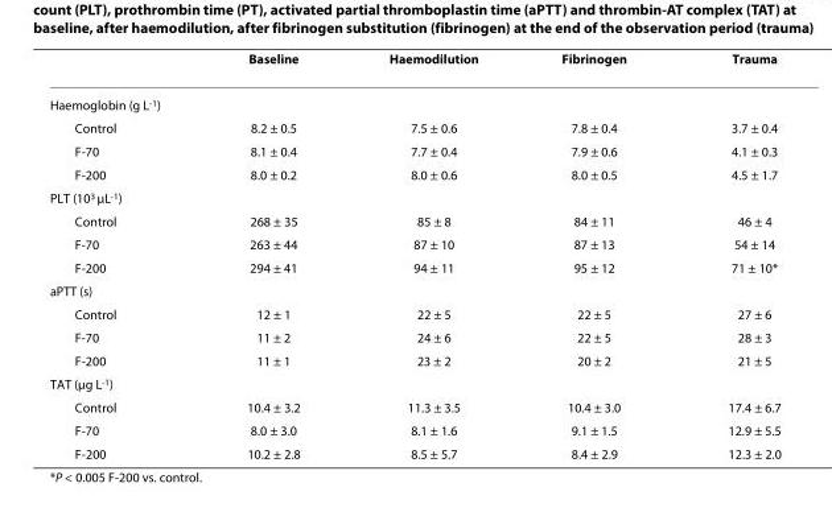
<table><thead><tr><td></td><td>Baseline</td><td>Haemodilution</td><td>Fibrinogen</td><td>Trauma</td></tr></thead><tbody><tr><td colspan="5">Haemoglobin (g L<sup>-1</sup>)</td></tr><tr><td>Control</td><td>8.2 ± 0.5</td><td>7.5 ± 0.6</td><td>7.8 ± 0.4</td><td>3.7 ± 0.4</td></tr><tr><td>F-70</td><td>8.1 ± 0.4</td><td>7.7 ± 0.4</td><td>7.9 ± 0.6</td><td>4.1 ± 0.3</td></tr><tr><td>F-200</td><td>8.0 ± 0.2</td><td>8.0 ± 0.6</td><td>8.0 ± 0.5</td><td>4.5 ± 1.7</td></tr><tr><td colspan="5">PLT (10<sup>3</sup> μL<sup>-1</sup>)</td></tr><tr><td>Control</td><td>268 ± 35</td><td>85 ± 8</td><td>84 ± 11</td><td>46 ± 4</td></tr><tr><td>F-70</td><td>263 ± 44</td><td>87 ± 10</td><td>87 ± 13</td><td>54 ± 14</td></tr><tr><td>F-200</td><td>294 ± 41</td><td>94 ± 11</td><td>95 ± 12</td><td>71 ± 10*</td></tr><tr><td colspan="5">aPTT (s)</td></tr><tr><td>Control</td><td>12 ± 1</td><td>22 ± 5</td><td>22 ± 5</td><td>27 ± 6</td></tr><tr><td>F-70</td><td>11 ± 2</td><td>24 ± 6</td><td>22 ± 5</td><td>28 ± 3</td></tr><tr><td>F-200</td><td>11 ± 1</td><td>23 ± 2</td><td>20 ± 2</td><td>21 ± 5</td></tr><tr><td colspan="5">TAT (μg L<sup>-1</sup>)</td></tr><tr><td>Control</td><td>10.4 ± 3.2</td><td>11.3 ± 3.5</td><td>10.4 ± 3.0</td><td>17.4 ± 6.7</td></tr><tr><td>F-70</td><td>8.0 ± 3.0</td><td>8.1 ± 1.6</td><td>9.1 ± 1.5</td><td>12.9 ± 5.5</td></tr><tr><td>F-200</td><td>10.2 ± 2.8</td><td>8.5 ± 5.7</td><td>8.4 ± 2.9</td><td>12.3 ± 2.0</td></tr></tbody></table>